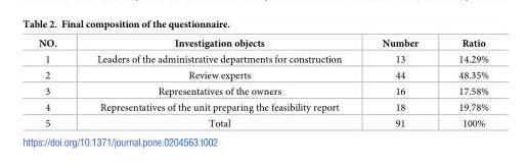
<table><thead><tr><td>NO.</td><td>Investigation objects</td><td>Number</td><td>Ratio</td></tr></thead><tbody><tr><td>1</td><td>Leaders of the administrative departments for construction</td><td>13</td><td>14.29%</td></tr><tr><td>2</td><td>Review experts</td><td>44</td><td>48.35%</td></tr><tr><td>3</td><td>Representatives of the owners</td><td>16</td><td>17.58%</td></tr><tr><td>4</td><td>Representatives of the unit preparing the feasibility report</td><td>18</td><td>19.78%</td></tr><tr><td>5</td><td>Total</td><td>91</td><td>100%</td></tr></tbody></table>